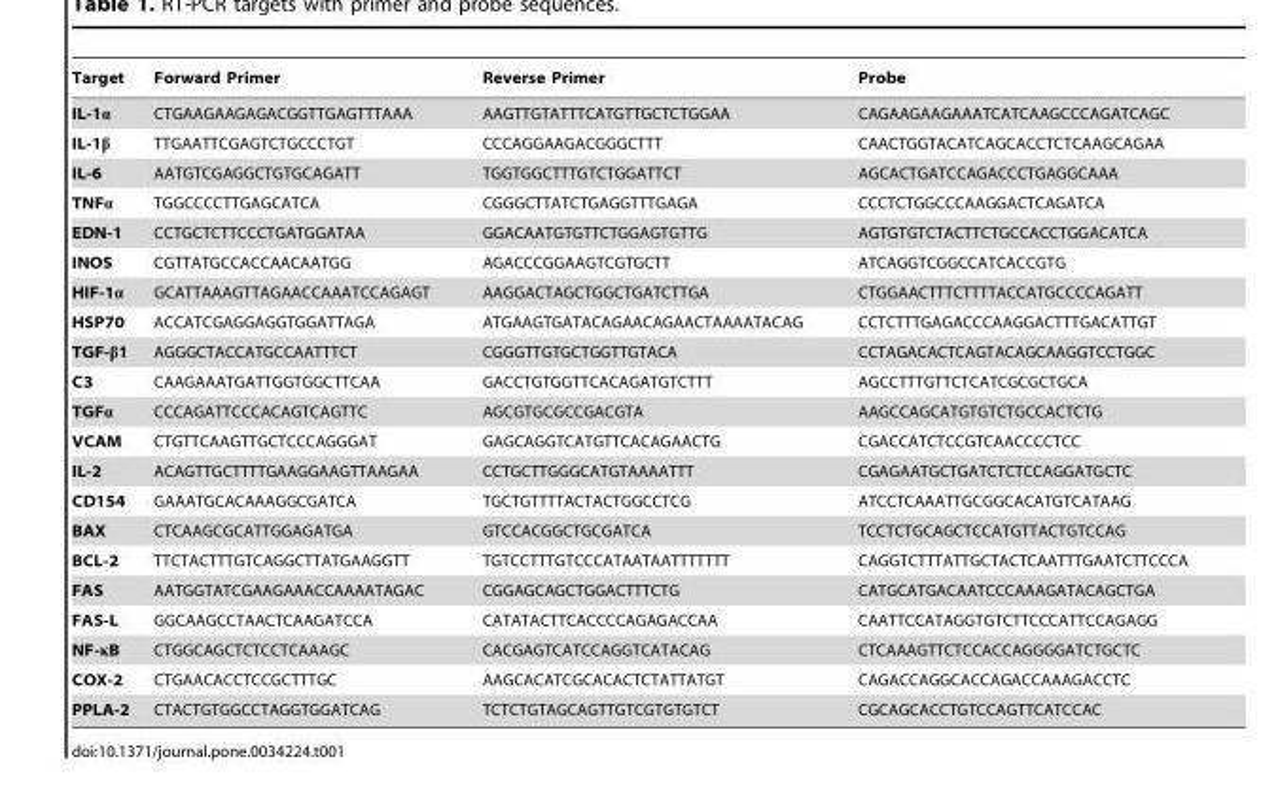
<table><thead><tr><td>Target</td><td>Forward Primer</td><td>Reverse Primer</td><td>Probe</td></tr></thead><tbody><tr><td>IL-1α</td><td>CTGAAGAAGAGACGGTTGAGTTTAAA</td><td>AAGTTGTATTTCATGTTGCTCTGGAA</td><td>CAGAAGAAGAAATCATCAAGCCCAGATCAGC</td></tr><tr><td>IL-1β</td><td>TTGAATTCGAGTCTGCCCTGT</td><td>CCCAGGAAGACGGGCTTT</td><td>CAACTGGTACATCAGCACCTCTCAAGCAGAA</td></tr><tr><td>IL-6</td><td>AATGTCGAGGCTGTGCAGATT</td><td>TGGTGGCTTTGTCTGGATTCT</td><td>AGCACTGATCCAGACCCTGAGGCAAA</td></tr><tr><td>TNFα</td><td>TGGCCCCTTGAGCATCA</td><td>CGGGCTTATCTGAGGTTTGAGA</td><td>CCCTCTGGCCCAAGGACTCAGATCA</td></tr><tr><td>EDN-1</td><td>CCTGCTCTTCCCTGATGGATAA</td><td>GGACAATGTGTTCTGGAGTGTTG</td><td>AGTGTGTCTACTTCTGCCACCTGGACATCA</td></tr><tr><td>INOS</td><td>CGTTATGCCACCAACAATGG</td><td>AGACCCGGAAGTCGTGCTT</td><td>ATCAGGTCGGCCATCACCGTG</td></tr><tr><td>HIF-1α</td><td>GCATTAAAGTTAGAACCAAATCCAGAGT</td><td>AAGGACTAGCTGGCTGATCTTGA</td><td>CTGGAACTTTCTTTTACCATGCCCCAGATT</td></tr><tr><td>HSP70</td><td>ACCATCGAGGAGGTGGATTAGA</td><td>ATGAAGTGATACAGAACAGAACTAAAATACAG</td><td>CCTCTTTGAGACCCAAGGACTTTGACATTGT</td></tr><tr><td>TGF-β1</td><td>AGGGCTACCATGCCAATTTCT</td><td>CGGGTTGTGCTGGTTGTACA</td><td>CCTAGACACTCAGTACAGCAAGGTCCTGGC</td></tr><tr><td>C3</td><td>CAAGAAATGATTGGTGGCTTCAA</td><td>GACCTGTGGTTCACAGATGTCTTT</td><td>AGCCTTTGTTCTCATCGCGCTGCA</td></tr><tr><td>TGFα</td><td>CCCAGATTCCCACAGTCAGTTC</td><td>AGCGTGCGCCGACGTA</td><td>AAGCCAGCATGTGTCTGCCACTCTG</td></tr><tr><td>VCAM</td><td>CTGTTCAAGTTGCTCCCAGGGAT</td><td>GAGCAGGTCATGTTCACAGAACTG</td><td>CGACCATCTCCGTCAACCCCTCC</td></tr><tr><td>IL-2</td><td>ACAGTTGCTTTTGAAGGAAGTTAAGAA</td><td>CCTGCTTGGGCATGTAAAATTT</td><td>CGAGAATGCTGATCTCTCCAGGATGCTC</td></tr><tr><td>CD154</td><td>GAAATGCACAAAGGCGATCA</td><td>TGCTGTTTTACTACTGGCCTCG</td><td>ATCCTCAAATTGCGGCACATGTCATAAG</td></tr><tr><td>BAX</td><td>CTCAAGCGCATTGGAGATGA</td><td>GTCCACGGCTGCGATCA</td><td>TCCTCTGCAGCTCCATGTTACTGTCCAG</td></tr><tr><td>BCL-2</td><td>TTCTACTTTGTCAGGCTTATGAAGGTT</td><td>TGTCCTTTGTCCCATAATAATTTTTTT</td><td>CAGGTCTTTATTGCTACTCAATTTGAATCTTCCCA</td></tr><tr><td>FAS</td><td>AATGGTATCGAAGAAACCAAAATAGAC</td><td>CGGAGCAGCTGGACTTTCTG</td><td>CATGCATGACAATCCCAAAGATACAGCTGA</td></tr><tr><td>FAS-L</td><td>GGCAAGCCTAACTCAAGATCCA</td><td>CATATACTTCACCCCAGAGACCAA</td><td>CAATTCCATAGGTGTCTTCCCATTCCAGAGG</td></tr><tr><td>NF-κB</td><td>CTGGCAGCTCTCCTCAAAGC</td><td>CACGAGTCATCCAGGTCATACAG</td><td>CTCAAAGTTCTCCACCAGGGGATCTGCTC</td></tr><tr><td>COX-2</td><td>CTGAACACCTCCGCTTTGC</td><td>AAGCACATCGCACACTCTATTATGT</td><td>CAGACCAGGCACCAGACCAAAGACCTC</td></tr><tr><td>PPLA-2</td><td>CTACTGTGGCCTAGGTGGATCAG</td><td>TCTCTGTAGCAGTTGTCGTGTGTCT</td><td>CGCAGCACCTGTCCAGTTCATCCAC</td></tr></tbody></table>